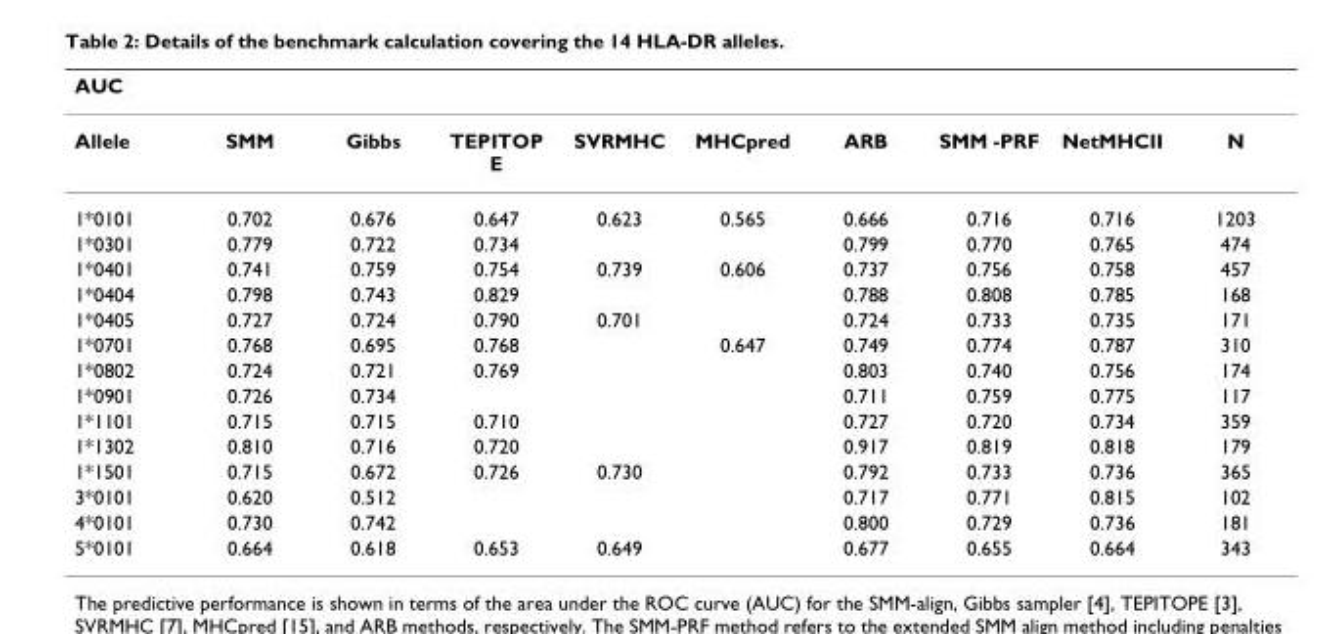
<table><thead><tr><td colspan="10">AUC</td></tr><tr><td>Allele</td><td>SMM</td><td>Gibbs</td><td>TEPITOP E</td><td>SVRMHC</td><td>MHCpred</td><td>ARB</td><td>SMM -PRF</td><td>NetMHCII</td><td>N</td></tr></thead><tbody><tr><td>1*0101</td><td>0.702</td><td>0.676</td><td>0.647</td><td>0.623</td><td>0.565</td><td>0.666</td><td>0.716</td><td>0.716</td><td>1203</td></tr><tr><td>1*0301</td><td>0.779</td><td>0.722</td><td>0.734</td><td></td><td></td><td>0.799</td><td>0.770</td><td>0.765</td><td>474</td></tr><tr><td>1*0401</td><td>0.741</td><td>0.759</td><td>0.754</td><td>0.739</td><td>0.606</td><td>0.737</td><td>0.756</td><td>0.758</td><td>457</td></tr><tr><td>1*0404</td><td>0.798</td><td>0.743</td><td>0.829</td><td></td><td></td><td>0.788</td><td>0.808</td><td>0.785</td><td>168</td></tr><tr><td>1*0405</td><td>0.727</td><td>0.724</td><td>0.790</td><td>0.701</td><td></td><td>0.724</td><td>0.733</td><td>0.735</td><td>171</td></tr><tr><td>1*0701</td><td>0.768</td><td>0.695</td><td>0.768</td><td></td><td>0.647</td><td>0.749</td><td>0.774</td><td>0.787</td><td>310</td></tr><tr><td>1*0802</td><td>0.724</td><td>0.721</td><td>0.769</td><td></td><td></td><td>0.803</td><td>0.740</td><td>0.756</td><td>174</td></tr><tr><td>1*0901</td><td>0.726</td><td>0.734</td><td></td><td></td><td></td><td>0.711</td><td>0.759</td><td>0.775</td><td>117</td></tr><tr><td>1*1101</td><td>0.715</td><td>0.715</td><td>0.710</td><td></td><td></td><td>0.727</td><td>0.720</td><td>0.734</td><td>359</td></tr><tr><td>1*1302</td><td>0.810</td><td>0.716</td><td>0.720</td><td></td><td></td><td>0.917</td><td>0.819</td><td>0.818</td><td>179</td></tr><tr><td>1*1501</td><td>0.715</td><td>0.672</td><td>0.726</td><td>0.730</td><td></td><td>0.792</td><td>0.733</td><td>0.736</td><td>365</td></tr><tr><td>3*0101</td><td>0.620</td><td>0.512</td><td></td><td></td><td></td><td>0.717</td><td>0.771</td><td>0.815</td><td>102</td></tr><tr><td>4*0101</td><td>0.730</td><td>0.742</td><td></td><td></td><td></td><td>0.800</td><td>0.729</td><td>0.736</td><td>181</td></tr><tr><td>5*0101</td><td>0.664</td><td>0.618</td><td>0.653</td><td>0.649</td><td></td><td>0.677</td><td>0.655</td><td>0.664</td><td>343</td></tr></tbody></table>